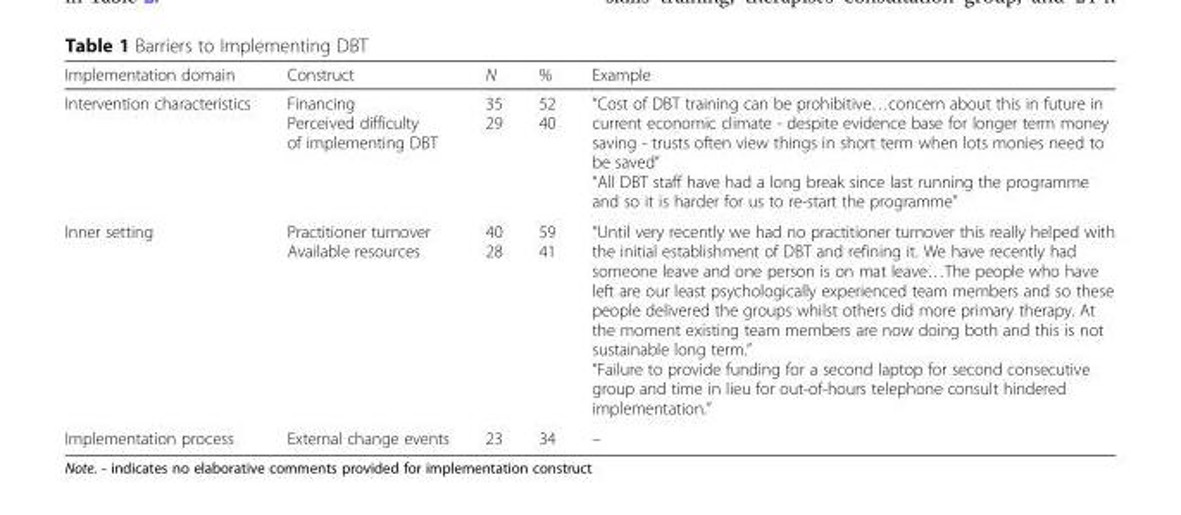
<table><thead><tr><td>Implementation domain</td><td>Construct</td><td>N</td><td>%</td><td>Example</td></tr></thead><tbody><tr><td>Intervention characteristics</td><td>Financing Perceived difficulty of implementing DBT</td><td>35 29</td><td>52 40</td><td>“Cost of DBT training can be prohibitive…concern about this in future in current economic climate - despite evidence base for longer term money saving - trusts often view things in short term when lots monies need to be saved” “All DBT staff have had a long break since last running the programme and so it is harder for us to re-start the programme”</td></tr><tr><td>Inner setting</td><td>Practitioner turnover Available resources</td><td>40 28</td><td>59 41</td><td>“Until very recently we had no practitioner turnover this really helped with the initial establishment of DBT and refining it. We have recently had someone leave and one person is on mat leave…The people who have left are our least psychologically experienced team members and so these people delivered the groups whilst others did more primary therapy. At the moment existing team members are now doing both and this is not sustainable long term.” “Failure to provide funding for a second laptop for second consecutive group and time in lieu for out-of-hours telephone consult hindered implementation.”</td></tr><tr><td>Implementation process</td><td>External change events</td><td>23</td><td>34</td><td>–</td></tr></tbody></table>